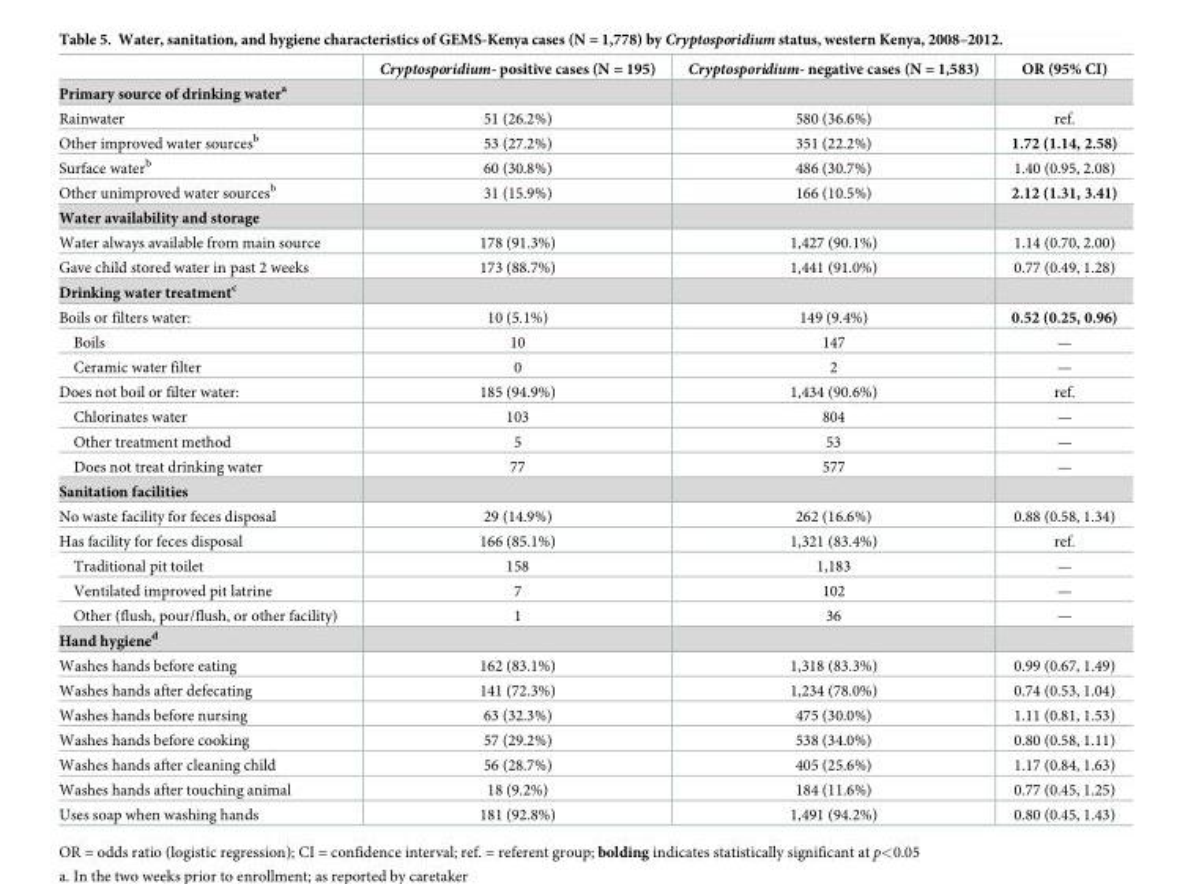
<table><thead><tr><td></td><td>Cryptosporidium- positive cases (N = 195)</td><td>Cryptosporidium- negative cases (N = 1,583)</td><td>OR (95% CI)</td></tr></thead><tbody><tr><td colspan="4">Primary source of drinking water<sup>a</sup></td></tr><tr><td>Rainwater</td><td>51 (26.2%)</td><td>580 (36.6%)</td><td>ref.</td></tr><tr><td>Other improved water sources<sup>b</sup></td><td>53 (27.2%)</td><td>351 (22.2%)</td><td>1.72 (1.14, 2.58)</td></tr><tr><td>Surface water<sup>b</sup></td><td>60 (30.8%)</td><td>486 (30.7%)</td><td>1.40 (0.95, 2.08)</td></tr><tr><td>Other unimproved water sources<sup>b</sup></td><td>31 (15.9%)</td><td>166 (10.5%)</td><td>2.12 (1.31, 3.41)</td></tr><tr><td colspan="4">Water availability and storage</td></tr><tr><td>Water always available from main source</td><td>178 (91.3%)</td><td>1,427 (90.1%)</td><td>1.14 (0.70, 2.00)</td></tr><tr><td>Gave child stored water in past 2 weeks</td><td>173 (88.7%)</td><td>1,441 (91.0%)</td><td>0.77 (0.49, 1.28)</td></tr><tr><td colspan="4">Drinking water treatment<sup>c</sup></td></tr><tr><td>Boils or filters water:</td><td>10 (5.1%)</td><td>149 (9.4%)</td><td>0.52 (0.25, 0.96)</td></tr><tr><td>Boils</td><td>10</td><td>147</td><td>—</td></tr><tr><td>Ceramic water filter</td><td>0</td><td>2</td><td>—</td></tr><tr><td>Does not boil or filter water:</td><td>185 (94.9%)</td><td>1,434 (90.6%)</td><td>ref.</td></tr><tr><td>Chlorinates water</td><td>103</td><td>804</td><td>—</td></tr><tr><td>Other treatment method</td><td>5</td><td>53</td><td>—</td></tr><tr><td>Does not treat drinking water</td><td>77</td><td>577</td><td>—</td></tr><tr><td colspan="4">Sanitation facilities</td></tr><tr><td>No waste facility for feces disposal</td><td>29 (14.9%)</td><td>262 (16.6%)</td><td>0.88 (0.58, 1.34)</td></tr><tr><td>Has facility for feces disposal</td><td>166 (85.1%)</td><td>1,321 (83.4%)</td><td>ref.</td></tr><tr><td>Traditional pit toilet</td><td>158</td><td>1,183</td><td>—</td></tr><tr><td>Ventilated improved pit latrine</td><td>7</td><td>102</td><td>—</td></tr><tr><td>Other (flush, pour/flush, or other facility)</td><td>1</td><td>36</td><td>—</td></tr><tr><td colspan="4">Hand hygiene<sup>d</sup></td></tr><tr><td>Washes hands before eating</td><td>162 (83.1%)</td><td>1,318 (83.3%)</td><td>0.99 (0.67, 1.49)</td></tr><tr><td>Washes hands after defecating</td><td>141 (72.3%)</td><td>1,234 (78.0%)</td><td>0.74 (0.53, 1.04)</td></tr><tr><td>Washes hands before nursing</td><td>63 (32.3%)</td><td>475 (30.0%)</td><td>1.11 (0.81, 1.53)</td></tr><tr><td>Washes hands before cooking</td><td>57 (29.2%)</td><td>538 (34.0%)</td><td>0.80 (0.58, 1.11)</td></tr><tr><td>Washes hands after cleaning child</td><td>56 (28.7%)</td><td>405 (25.6%)</td><td>1.17 (0.84, 1.63)</td></tr><tr><td>Washes hands after touching animal</td><td>18 (9.2%)</td><td>184 (11.6%)</td><td>0.77 (0.45, 1.25)</td></tr><tr><td>Uses soap when washing hands</td><td>181 (92.8%)</td><td>1,491 (94.2%)</td><td>0.80 (0.45, 1.43)</td></tr></tbody></table>